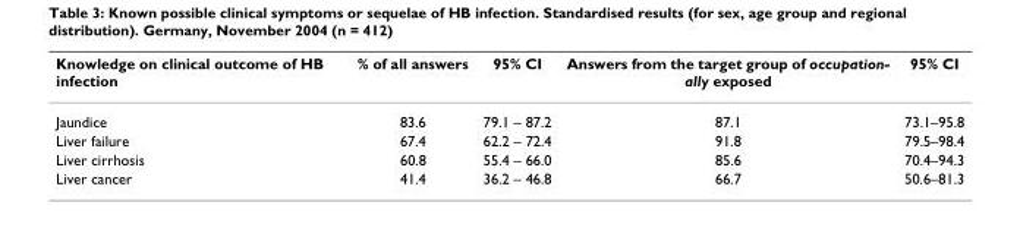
<table><thead><tr><td>Knowledge on clinical outcome of HB infection</td><td>% of all answers</td><td>95% CI</td><td>Answers from the target group of occupation- ally exposed</td><td>95% CI</td></tr></thead><tbody><tr><td>Jaundice</td><td>83.6</td><td>79.1 – 87.2</td><td>87.1</td><td>73.1–95.8</td></tr><tr><td>Liver failure</td><td>67.4</td><td>62.2 – 72.4</td><td>91.8</td><td>79.5–98.4</td></tr><tr><td>Liver cirrhosis</td><td>60.8</td><td>55.4 – 66.0</td><td>85.6</td><td>70.4–94.3</td></tr><tr><td>Liver cancer</td><td>41.4</td><td>36.2 – 46.8</td><td>66.7</td><td>50.6–81.3</td></tr></tbody></table>